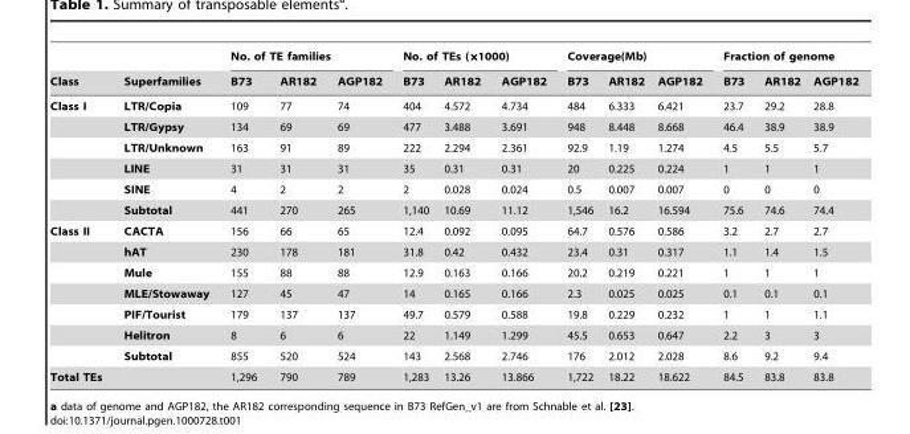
<table><thead><tr><td rowspan="2">Class</td><td rowspan="2">Superfamilies</td><td colspan="3">No. of TE families</td><td colspan="3">No. of TEs (×1000)</td><td colspan="3">Coverage(Mb)</td><td colspan="3">Fraction of genome</td></tr><tr><td>B73</td><td>AR182</td><td>AGP182</td><td>B73</td><td>AR182</td><td>AGP182</td><td>B73</td><td>AR182</td><td>AGP182</td><td>B73</td><td>AR182</td><td>AGP182</td></tr></thead><tbody><tr><td rowspan="6">Class I</td><td>LTR/Copia</td><td>109</td><td>77</td><td>74</td><td>404</td><td>4.572</td><td>4.734</td><td>484</td><td>6.333</td><td>6.421</td><td>23.7</td><td>29.2</td><td>28.8</td></tr><tr><td>LTR/Gypsy</td><td>134</td><td>69</td><td>69</td><td>477</td><td>3.488</td><td>3.691</td><td>948</td><td>8.448</td><td>8.668</td><td>46.4</td><td>38.9</td><td>38.9</td></tr><tr><td>LTR/Unknown</td><td>163</td><td>91</td><td>89</td><td>222</td><td>2.294</td><td>2.361</td><td>92.9</td><td>1.19</td><td>1.274</td><td>4.5</td><td>5.5</td><td>5.7</td></tr><tr><td>LINE</td><td>31</td><td>31</td><td>31</td><td>35</td><td>0.31</td><td>0.31</td><td>20</td><td>0.225</td><td>0.224</td><td>1</td><td>1</td><td>1</td></tr><tr><td>SINE</td><td>4</td><td>2</td><td>2</td><td>2</td><td>0.028</td><td>0.024</td><td>0.5</td><td>0.007</td><td>0.007</td><td>0</td><td>0</td><td>0</td></tr><tr><td>Subtotal</td><td>441</td><td>270</td><td>265</td><td>1,140</td><td>10.69</td><td>11.12</td><td>1,546</td><td>16.2</td><td>16.594</td><td>75.6</td><td>74.6</td><td>74.4</td></tr><tr><td rowspan="7">Class II</td><td>CACTA</td><td>156</td><td>66</td><td>65</td><td>12.4</td><td>0.092</td><td>0.095</td><td>64.7</td><td>0.576</td><td>0.586</td><td>3.2</td><td>2.7</td><td>2.7</td></tr><tr><td>hAT</td><td>230</td><td>178</td><td>181</td><td>31.8</td><td>0.42</td><td>0.432</td><td>23.4</td><td>0.31</td><td>0.317</td><td>1.1</td><td>1.4</td><td>1.5</td></tr><tr><td>Mule</td><td>155</td><td>88</td><td>88</td><td>12.9</td><td>0.163</td><td>0.166</td><td>20.2</td><td>0.219</td><td>0.221</td><td>1</td><td>1</td><td>1</td></tr><tr><td>MLE/Stowaway</td><td>127</td><td>45</td><td>47</td><td>14</td><td>0.165</td><td>0.166</td><td>2.3</td><td>0.025</td><td>0.025</td><td>0.1</td><td>0.1</td><td>0.1</td></tr><tr><td>PIF/Tourist</td><td>179</td><td>137</td><td>137</td><td>49.7</td><td>0.579</td><td>0.588</td><td>19.8</td><td>0.229</td><td>0.232</td><td>1</td><td>1</td><td>1.1</td></tr><tr><td>Helitron</td><td>8</td><td>6</td><td>6</td><td>22</td><td>1.149</td><td>1.299</td><td>45.5</td><td>0.653</td><td>0.647</td><td>2.2</td><td>3</td><td>3</td></tr><tr><td>Subtotal</td><td>855</td><td>520</td><td>524</td><td>143</td><td>2.568</td><td>2.746</td><td>176</td><td>2.012</td><td>2.028</td><td>8.6</td><td>9.2</td><td>9.4</td></tr><tr><td>Total TEs</td><td></td><td>1,296</td><td>790</td><td>789</td><td>1,283</td><td>13.26</td><td>13.866</td><td>1,722</td><td>18.22</td><td>18.622</td><td>84.5</td><td>83.8</td><td>83.8</td></tr></tbody></table>